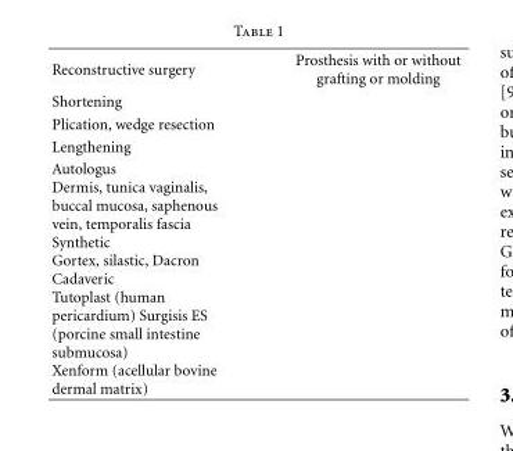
<table><tbody><tr><td>Reconstructive surgery</td><td>Prosthesis with or without grafting or molding</td></tr><tr><td colspan="2">Shortening</td></tr><tr><td colspan="2">Plication, wedge resection</td></tr><tr><td colspan="2">Lengthening</td></tr><tr><td>Autologus Dermis, tunica vaginalis, buccal mucosa, saphenous vein, temporalis fascia Synthetic Gortex, silastic, Dacron Cadaveric Tutoplast (human pericardium) Surgisis ES (porcine small intestine submucosa) Xenform (acellular bovine dermal matrix)</td><td></td></tr></tbody></table>